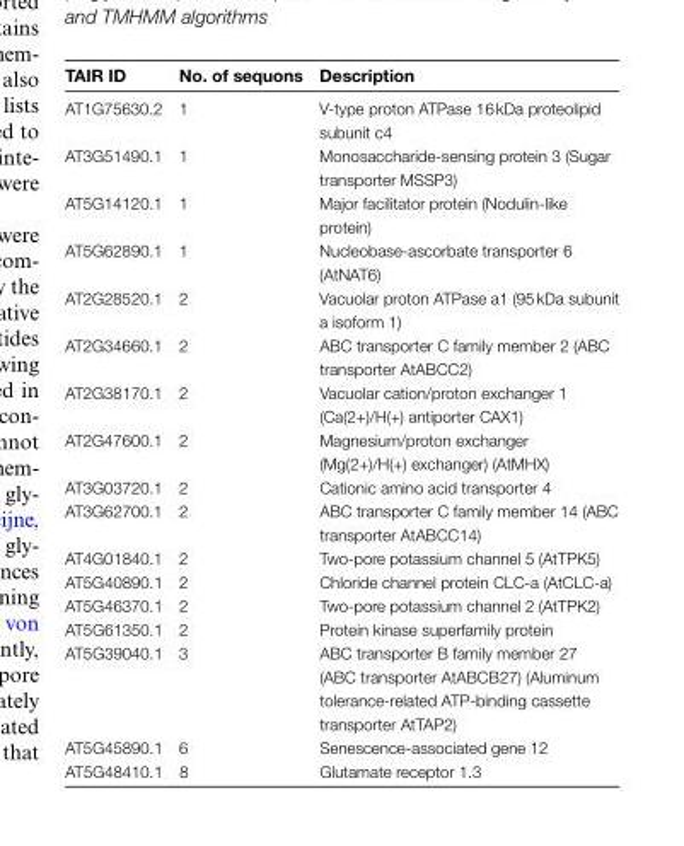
<table><thead><tr><td>TAIR ID</td><td>No. of sequons</td><td>Description</td></tr></thead><tbody><tr><td>AT1G75630.2</td><td>1</td><td>V-type proton ATPase 16 kDa proteolipid subunit c4</td></tr><tr><td>AT3G51490.1</td><td>1</td><td>Monosaccharide-sensing protein 3 (Sugar transporter MSSP3)</td></tr><tr><td>AT5G14120.1</td><td>1</td><td>Major facilitator protein (Nodulin-like protein)</td></tr><tr><td>AT5G62890.1</td><td>1</td><td>Nucleobase-ascorbate transporter 6 (AtNAT6)</td></tr><tr><td>AT2G28520.1</td><td>2</td><td>Vacuolar proton ATPase a1 (95 kDa subunit a isoform 1)</td></tr><tr><td>AT2G34660.1</td><td>2</td><td>ABC transporter C family member 2 (ABC transporter AtABCC2)</td></tr><tr><td>AT2G38170.1</td><td>2</td><td>Vacuolar cation/proton exchanger 1 (Ca(2+)/H(+) antiporter CAX1)</td></tr><tr><td>AT2G47600.1</td><td>2</td><td>Magnesium/proton exchanger (Mg(2+)/H(+) exchanger) (AtMHX)</td></tr><tr><td>AT3G03720.1</td><td>2</td><td>Cationic amino acid transporter 4</td></tr><tr><td>AT3G62700.1</td><td>2</td><td>ABC transporter C family member 14 (ABC transporter AtABCC14)</td></tr><tr><td>AT4G01840.1</td><td>2</td><td>Two-pore potassium channel 5 (AtTPK5)</td></tr><tr><td>AT5G40890.1</td><td>2</td><td>Chloride channel protein CLC-a (AtCLC-a)</td></tr><tr><td>AT5G46370.1</td><td>2</td><td>Two-pore potassium channel 2 (AtTPK2)</td></tr><tr><td>AT5G61350.1</td><td>2</td><td>Protein kinase superfamily protein</td></tr><tr><td>AT5G39040.1</td><td>3</td><td>ABC transporter B family member 27 (ABC transporter AtABCB27) (Aluminum tolerance-related ATP-binding cassette transporter AtTAP2)</td></tr><tr><td>AT5G45890.1</td><td>6</td><td>Senescence-associated gene 12</td></tr><tr><td>AT5G48410.1</td><td>8</td><td>Glutamate receptor 1.3</td></tr></tbody></table>